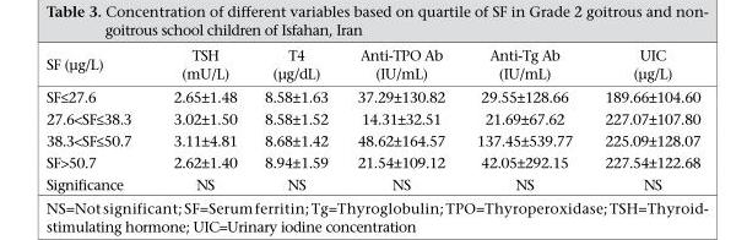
<table><thead><tr><td>SF (µg/L)</td><td>TSH (mU/L)</td><td>T4 (μg/dL)</td><td>Anti-TPO Ab (IU/mL)</td><td>Anti-Tg Ab (IU/mL)</td><td>UIC (μg/L)</td></tr></thead><tbody><tr><td>SF≤27.6</td><td>2.65±1.48</td><td>8.58±1.63</td><td>37.29±130.82</td><td>29.55±128.66</td><td>189.66±104.60</td></tr><tr><td>27.6&lt;SF≤38.3</td><td>3.02±1.50</td><td>8.58±1.52</td><td>14.31±32.51</td><td>21.69±67.62</td><td>227.07±107.80</td></tr><tr><td>38.3&lt;SF≤50.7</td><td>3.11±4.81</td><td>8.68±1.42</td><td>48.62±164.57</td><td>137.45±539.77</td><td>225.09±128.07</td></tr><tr><td>SF&gt;50.7</td><td>2.62±1.40</td><td>8.94±1.59</td><td>21.54±109.12</td><td>42.05±292.15</td><td>227.54±122.68</td></tr><tr><td>Significance</td><td>NS</td><td>NS</td><td>NS</td><td>NS</td><td>NS</td></tr></tbody></table>